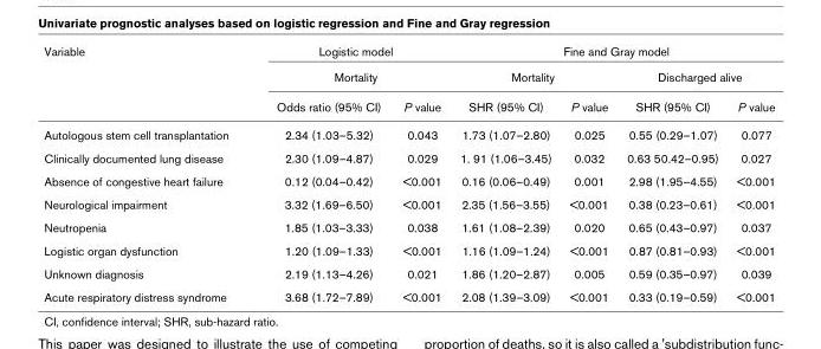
<table><thead><tr><td rowspan="3">Variable</td><td rowspan="2" colspan="2">Logistic model Mortality</td><td colspan="4">Fine and Gray model</td></tr><tr><td colspan="2">Mortality</td><td colspan="2">Discharged alive</td></tr><tr><td>Odds ratio (95% CI)</td><td>P value</td><td>SHR (95% CI)</td><td>P value</td><td>SHR (95% CI)</td><td>P value</td></tr></thead><tbody><tr><td>Autologous stem cell transplantation</td><td>2.34 (1.03–5.32)</td><td>0.043</td><td>1.73 (1.07–2.80)</td><td>0.025</td><td>0.55 (0.29–1.07)</td><td>0.077</td></tr><tr><td>Clinically documented lung disease</td><td>2.30 (1.09–4.87)</td><td>0.029</td><td>1. 91 (1.06–3.45)</td><td>0.032</td><td>0.63 50.42–0.95)</td><td>0.027</td></tr><tr><td>Absence of congestive heart failure</td><td>0.12 (0.04–0.42)</td><td>&lt;0.001</td><td>0.16 (0.06–0.49)</td><td>0.001</td><td>2.98 (1.95–4.55)</td><td>&lt;0.001</td></tr><tr><td>Neurological impairment</td><td>3.32 (1.69–6.50)</td><td>&lt;0.001</td><td>2.35 (1.56–3.55)</td><td>&lt;0.001</td><td>0.38 (0.23–0.61)</td><td>&lt;0.001</td></tr><tr><td>Neutropenia</td><td>1.85 (1.03–3.33)</td><td>0.038</td><td>1.61 (1.08–2.39)</td><td>0.020</td><td>0.65 (0.43–0.97)</td><td>0.037</td></tr><tr><td>Logistic organ dysfunction</td><td>1.20 (1.09–1.33)</td><td>&lt;0.001</td><td>1.16 (1.09–1.24)</td><td>&lt;0.001</td><td>0.87 (0.81–0.93)</td><td>&lt;0.001</td></tr><tr><td>Unknown diagnosis</td><td>2.19 (1.13–4.26)</td><td>0.021</td><td>1.86 (1.20–2.87)</td><td>0.005</td><td>0.59 (0.35–0.97)</td><td>0.039</td></tr><tr><td>Acute respiratory distress syndrome</td><td>3.68 (1.72–7.89)</td><td>&lt;0.001</td><td>2.08 (1.39–3.09)</td><td>&lt;0.001</td><td>0.33 (0.19–0.59)</td><td>&lt;0.001</td></tr></tbody></table>